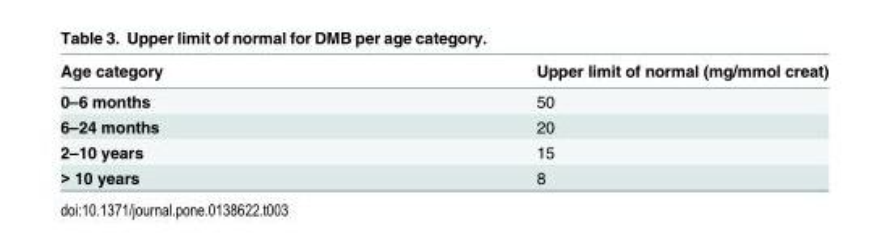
<table><thead><tr><td>Age category</td><td>Upper limit of normal (mg/mmol creat)</td></tr></thead><tbody><tr><td>0–6 months</td><td>50</td></tr><tr><td>6–24 months</td><td>20</td></tr><tr><td>2–10 years</td><td>15</td></tr><tr><td>&gt; 10 years</td><td>8</td></tr></tbody></table>